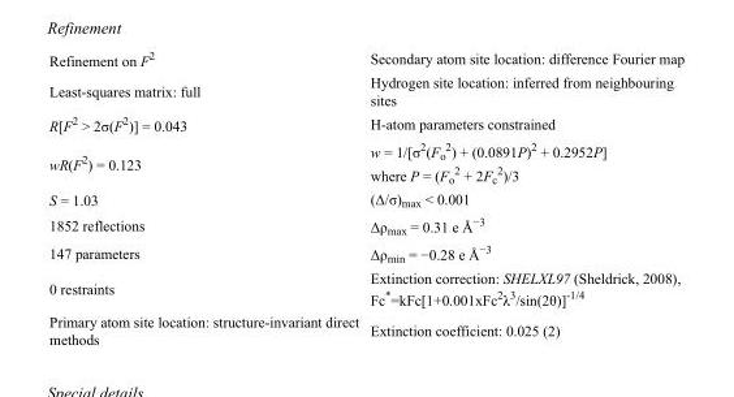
<table><tbody><tr><td>Refinement on F<sup>2</sup></td><td>Secondary atom site location: difference Fourier map</td></tr><tr><td>Least-squares matrix: full</td><td>Hydrogen site location: inferred from neighbouring sites</td></tr><tr><td>R[F<sup>2</sup> &gt; 2σ(F<sup>2</sup>)] = 0.043</td><td>H-atom parameters constrained</td></tr><tr><td>wR(F<sup>2</sup>) = 0.123</td><td>w = 1/[σ<sup>2</sup>(F<sub>o</sub> <sup>2</sup>) + (0.0891P)<sup>2</sup> + 0.2952P] where P = (F<sub>o</sub> <sup>2</sup> + 2F<sub>c</sub> <sup>2</sup>)/3</td></tr><tr><td>S = 1.03</td><td>(Δ/σ)<sub>max</sub> &lt; 0.001</td></tr><tr><td>1852 reflections</td><td>Δρ<sub>max</sub> = 0.31 e Å<sup>−3</sup></td></tr><tr><td>147 parameters</td><td>Δρ<sub>min</sub> = −0.28 e Å<sup>−3</sup></td></tr><tr><td>0 restraints</td><td>Extinction correction: SHELXL97 (Sheldrick, 2008), Fc*=kFc[1+0.001xFc<sup>2</sup>λ<sup>3</sup>/sin(2θ)]<sup>-1/4</sup></td></tr><tr><td>Primary atom site location: structure-invariant direct methods</td><td>Extinction coefficient: 0.025 (2)</td></tr></tbody></table>